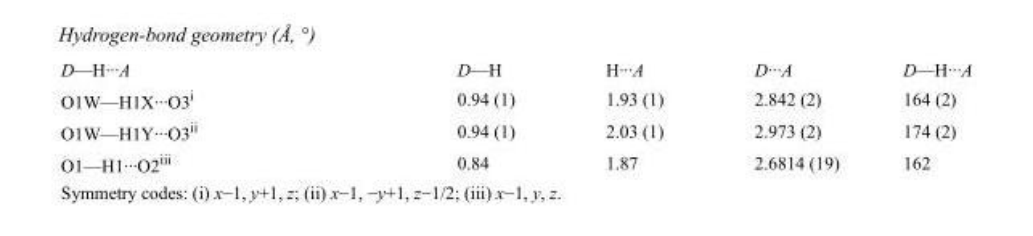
<table><tbody><tr><td>D—H···A</td><td>D—H</td><td>H···A</td><td>D···A</td><td>D—H···A</td></tr><tr><td>O1W—H1X···O3<sup>i</sup></td><td>0.94 (1)</td><td>1.93 (1)</td><td>2.842 (2)</td><td>164 (2)</td></tr><tr><td>O1W—H1Y···O3<sup>ii</sup></td><td>0.94 (1)</td><td>2.03 (1)</td><td>2.973 (2)</td><td>174 (2)</td></tr><tr><td>O1—H1···O2<sup>iii</sup></td><td>0.84</td><td>1.87</td><td>2.6814 (19)</td><td>162</td></tr></tbody></table>